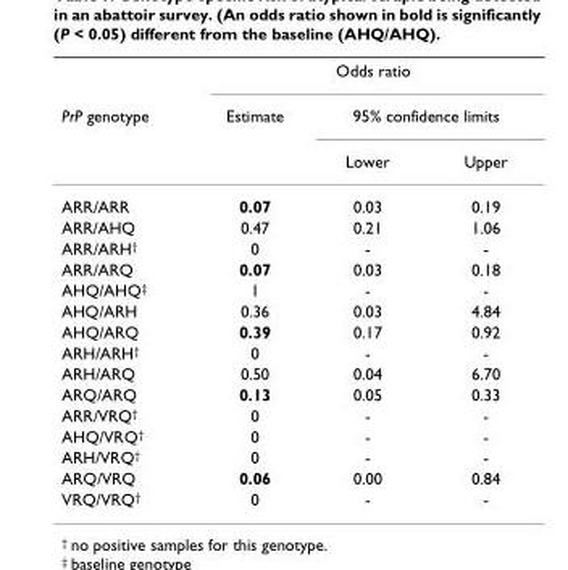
<table><thead><tr><td rowspan="3">PrP genotype</td><td colspan="3">Odds ratio</td></tr><tr><td rowspan="2">Estimate</td><td colspan="2">95% confidence limits</td></tr><tr><td>Lower</td><td>Upper</td></tr></thead><tbody><tr><td>ARR/ARR</td><td>0.07</td><td>0.03</td><td>0.19</td></tr><tr><td>ARR/AHQ</td><td>0.47</td><td>0.21</td><td>1.06</td></tr><tr><td>ARR/ARH<sup>†</sup></td><td>0</td><td>-</td><td>-</td></tr><tr><td>ARR/ARQ</td><td>0.07</td><td>0.03</td><td>0.18</td></tr><tr><td>AHQ/AHQ<sup>‡</sup></td><td>1</td><td>-</td><td>-</td></tr><tr><td>AHQ/ARH</td><td>0.36</td><td>0.03</td><td>4.84</td></tr><tr><td>AHQ/ARQ</td><td>0.39</td><td>0.17</td><td>0.92</td></tr><tr><td>ARH/ARH<sup>†</sup></td><td>0</td><td>-</td><td>-</td></tr><tr><td>ARH/ARQ</td><td>0.50</td><td>0.04</td><td>6.70</td></tr><tr><td>ARQ/ARQ</td><td>0.13</td><td>0.05</td><td>0.33</td></tr><tr><td>ARR/VRQ<sup>†</sup></td><td>0</td><td>-</td><td>-</td></tr><tr><td>AHQ/VRQ<sup>†</sup></td><td>0</td><td>-</td><td>-</td></tr><tr><td>ARH/VRQ<sup>†</sup></td><td>0</td><td>-</td><td>-</td></tr><tr><td>ARQ/VRQ</td><td>0.06</td><td>0.00</td><td>0.84</td></tr><tr><td>VRQ/VRQ<sup>†</sup></td><td>0</td><td>-</td><td>-</td></tr></tbody></table>